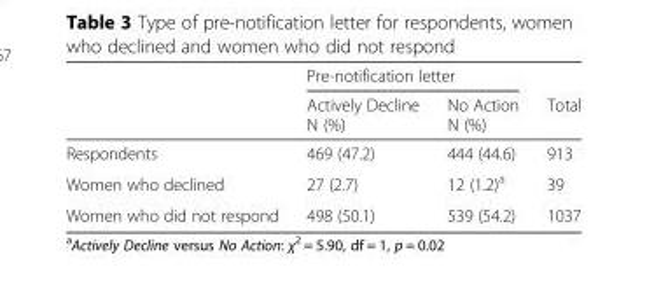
<table><thead><tr><td rowspan="2"></td><td colspan="2">Pre-notification letter</td><td rowspan="2">Total</td></tr><tr><td>Actively Decline N (%)</td><td>No Action N (%)</td></tr></thead><tbody><tr><td>Respondents</td><td>469 (47.2)</td><td>444 (44.6)</td><td>913</td></tr><tr><td>Women who declined</td><td>27 (2.7)</td><td>12 (1.2)<sup>a</sup></td><td>39</td></tr><tr><td>Women who did not respond</td><td>498 (50.1)</td><td>539 (54.2)</td><td>1037</td></tr></tbody></table>